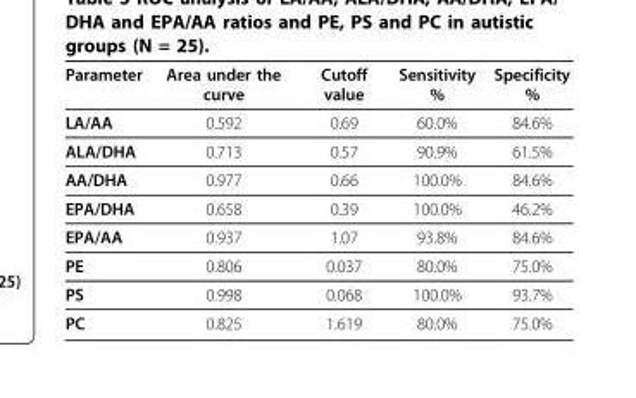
<table><thead><tr><td>Parameter</td><td>Area under the curve</td><td>Cutoff value</td><td>Sensitivity %</td><td>Specificity %</td></tr></thead><tbody><tr><td>LA/AA</td><td>0.592</td><td>0.69</td><td>60.0%</td><td>84.6%</td></tr><tr><td>ALA/DHA</td><td>0.713</td><td>0.57</td><td>90.9%</td><td>61.5%</td></tr><tr><td>AA/DHA</td><td>0.977</td><td>0.66</td><td>100.0%</td><td>84.6%</td></tr><tr><td>EPA/DHA</td><td>0.658</td><td>0.39</td><td>100.0%</td><td>46.2%</td></tr><tr><td>EPA/AA</td><td>0.937</td><td>1.07</td><td>93.8%</td><td>84.6%</td></tr><tr><td>PE</td><td>0.806</td><td>0.037</td><td>80.0%</td><td>75.0%</td></tr><tr><td>PS</td><td>0.998</td><td>0.068</td><td>100.0%</td><td>93.7%</td></tr><tr><td>PC</td><td>0.825</td><td>1.619</td><td>80.0%</td><td>75.0%</td></tr></tbody></table>